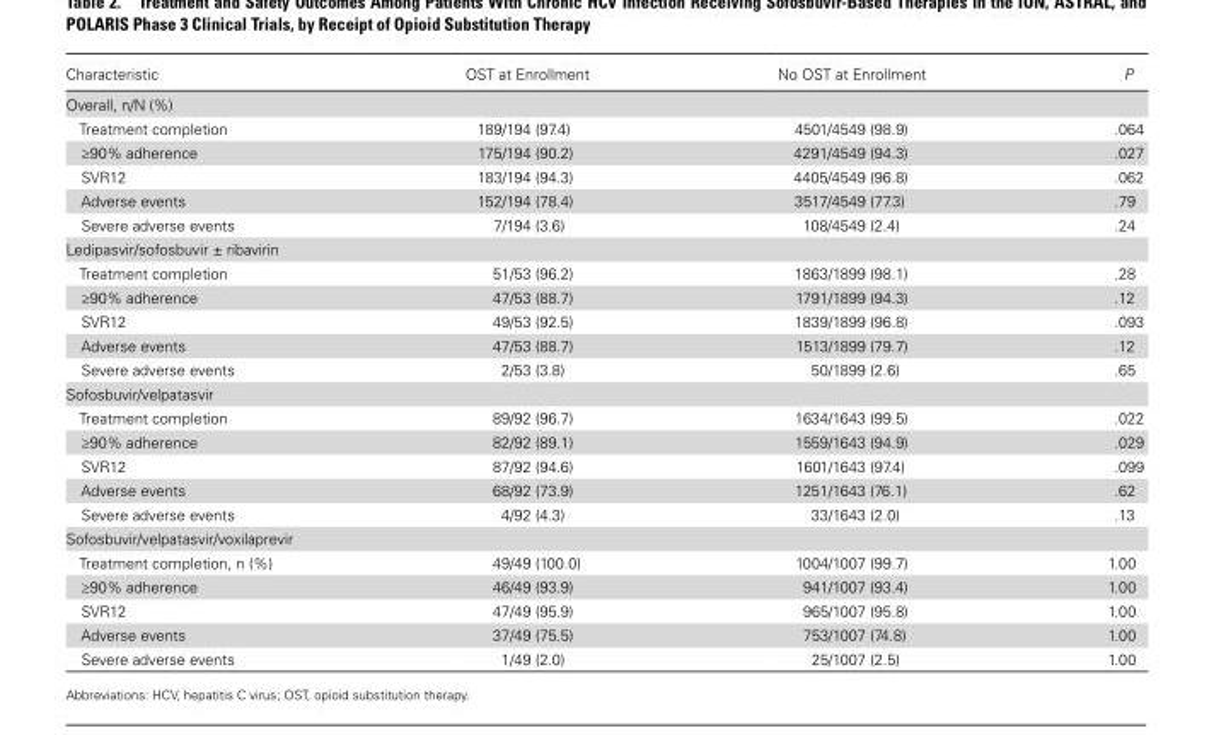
<table><thead><tr><td>Characteristic</td><td>OST at Enrollment</td><td>No OST at Enrollment</td><td>P</td></tr></thead><tbody><tr><td colspan="4">Overall, n/N (%)</td></tr><tr><td>Treatment completion</td><td>189/194 (97.4)</td><td>4501/4549 (98.9)</td><td>.064</td></tr><tr><td>≥90% adherence</td><td>175/194 (90.2)</td><td>4291/4549 (94.3)</td><td>.027</td></tr><tr><td>SVR12</td><td>183/194 (94.3)</td><td>4405/4549 (96.8)</td><td>.062</td></tr><tr><td>Adverse events</td><td>152/194 (78.4)</td><td>3517/4549 (77.3)</td><td>.79</td></tr><tr><td>Severe adverse events</td><td>7/194 (3.6)</td><td>108/4549 (2.4)</td><td>.24</td></tr><tr><td colspan="4">Ledipasvir/sofosbuvir ± ribavirin</td></tr><tr><td>Treatment completion</td><td>51/53 (96.2)</td><td>1863/1899 (98.1)</td><td>.28</td></tr><tr><td>≥90% adherence</td><td>47/53 (88.7)</td><td>1791/1899 (94.3)</td><td>.12</td></tr><tr><td>SVR12</td><td>49/53 (92.5)</td><td>1839/1899 (96.8)</td><td>.093</td></tr><tr><td>Adverse events</td><td>47/53 (88.7)</td><td>1513/1899 (79.7)</td><td>.12</td></tr><tr><td>Severe adverse events</td><td>2/53 (3.8)</td><td>50/1899 (2.6)</td><td>.65</td></tr><tr><td colspan="4">Sofosbuvir/velpatasvir</td></tr><tr><td>Treatment completion</td><td>89/92 (96.7)</td><td>1634/1643 (99.5)</td><td>.022</td></tr><tr><td>≥90% adherence</td><td>82/92 (89.1)</td><td>1559/1643 (94.9)</td><td>.029</td></tr><tr><td>SVR12</td><td>87/92 (94.6)</td><td>1601/1643 (97.4)</td><td>.099</td></tr><tr><td>Adverse events</td><td>68/92 (73.9)</td><td>1251/1643 (76.1)</td><td>.62</td></tr><tr><td>Severe adverse events</td><td>4/92 (4.3)</td><td>33/1643 (2.0)</td><td>.13</td></tr><tr><td colspan="4">Sofosbuvir/velpatasvir/voxilaprevir</td></tr><tr><td>Treatment completion, n (%)</td><td>49/49 (100.0)</td><td>1004/1007 (99.7)</td><td>1.00</td></tr><tr><td>≥90% adherence</td><td>46/49 (93.9)</td><td>941/1007 (93.4)</td><td>1.00</td></tr><tr><td>SVR12</td><td>47/49 (95.9)</td><td>965/1007 (95.8)</td><td>1.00</td></tr><tr><td>Adverse events</td><td>37/49 (75.5)</td><td>753/1007 (74.8)</td><td>1.00</td></tr><tr><td>Severe adverse events</td><td>1/49 (2.0)</td><td>25/1007 (2.5)</td><td>1.00</td></tr></tbody></table>